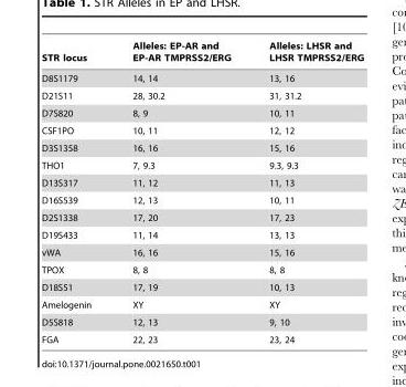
<table><thead><tr><td>STR locus</td><td>Alleles: EP-AR and EP-AR TMPRSS2/ERG</td><td>Alleles: LHSR and LHSR TMPRSS2/ERG</td></tr></thead><tbody><tr><td>D8S1179</td><td>14, 14</td><td>13, 16</td></tr><tr><td>D21S11</td><td>28, 30.2</td><td>31, 31.2</td></tr><tr><td>D7S820</td><td>8, 9</td><td>10, 11</td></tr><tr><td>CSF1PO</td><td>10, 11</td><td>12, 12</td></tr><tr><td>D3S1358</td><td>16, 16</td><td>15, 16</td></tr><tr><td>THO1</td><td>7, 9.3</td><td>9.3, 9.3</td></tr><tr><td>D13S317</td><td>11, 12</td><td>11, 13</td></tr><tr><td>D16S539</td><td>12, 13</td><td>10, 11</td></tr><tr><td>D2S1338</td><td>17, 20</td><td>17, 23</td></tr><tr><td>D19S433</td><td>11, 14</td><td>13, 13</td></tr><tr><td>vWA</td><td>16, 16</td><td>15, 16</td></tr><tr><td>TPOX</td><td>8, 8</td><td>8, 8</td></tr><tr><td>D18S51</td><td>17, 19</td><td>10, 13</td></tr><tr><td>Amelogenin</td><td>XY</td><td>XY</td></tr><tr><td>D5S818</td><td>12, 13</td><td>9, 10</td></tr><tr><td>FGA</td><td>22, 23</td><td>23, 24</td></tr></tbody></table>